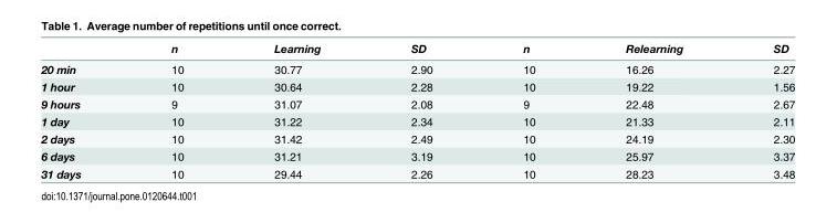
<table><thead><tr><td></td><td>n</td><td>Learning</td><td>SD</td><td>n</td><td>Relearning</td><td>SD</td></tr></thead><tbody><tr><td>20 min</td><td>10</td><td>30.77</td><td>2.90</td><td>10</td><td>16.26</td><td>2.27</td></tr><tr><td>1 hour</td><td>10</td><td>30.64</td><td>2.28</td><td>10</td><td>19.22</td><td>1.56</td></tr><tr><td>9 hours</td><td>9</td><td>31.07</td><td>2.08</td><td>9</td><td>22.48</td><td>2.67</td></tr><tr><td>1 day</td><td>10</td><td>31.22</td><td>2.34</td><td>10</td><td>21.33</td><td>2.11</td></tr><tr><td>2 days</td><td>10</td><td>31.42</td><td>2.49</td><td>10</td><td>24.19</td><td>2.30</td></tr><tr><td>6 days</td><td>10</td><td>31.21</td><td>3.19</td><td>10</td><td>25.97</td><td>3.37</td></tr><tr><td>31 days</td><td>10</td><td>29.44</td><td>2.26</td><td>10</td><td>28.23</td><td>3.48</td></tr></tbody></table>